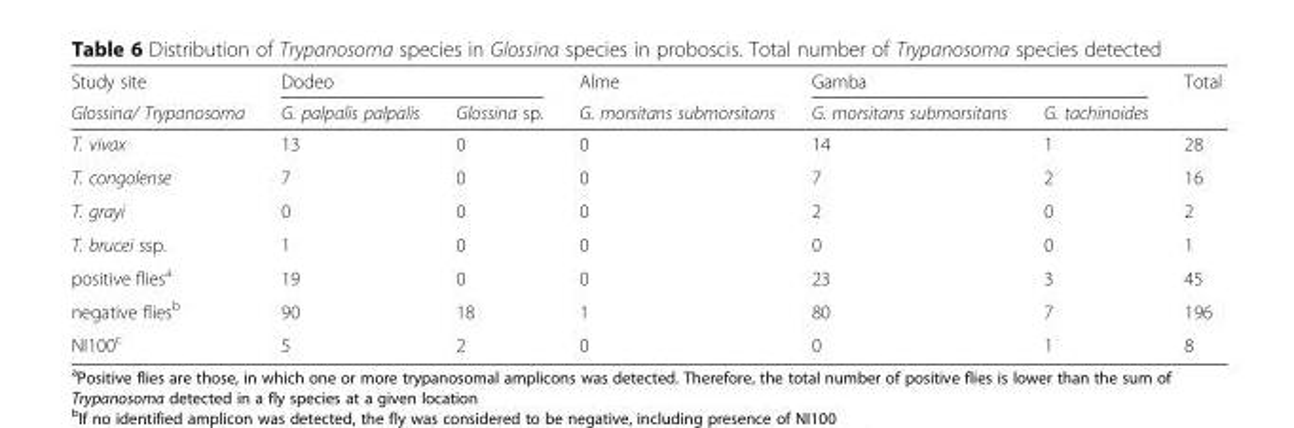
<table><thead><tr><td rowspan="2">Study site Glossina/ Trypanosoma</td><td colspan="2">Dodeo</td><td rowspan="2">Alme G. morsitans submorsitans</td><td colspan="2">Gamba</td><td rowspan="2">Total</td></tr><tr><td>G. palpalis palpalis</td><td>Glossina sp.</td><td>G. morsitans submorsitans</td><td>G. tachinoides</td></tr></thead><tbody><tr><td>T. vivax</td><td>13</td><td>0</td><td>0</td><td>14</td><td>1</td><td>28</td></tr><tr><td>T. congolense</td><td>7</td><td>0</td><td>0</td><td>7</td><td>2</td><td>16</td></tr><tr><td>T. grayi</td><td>0</td><td>0</td><td>0</td><td>2</td><td>0</td><td>2</td></tr><tr><td>T. brucei ssp.</td><td>1</td><td>0</td><td>0</td><td>0</td><td>0</td><td>1</td></tr><tr><td>positive flies<sup>a</sup></td><td>19</td><td>0</td><td>0</td><td>23</td><td>3</td><td>45</td></tr><tr><td>negative flies<sup>b</sup></td><td>90</td><td>18</td><td>1</td><td>80</td><td>7</td><td>196</td></tr><tr><td>NI100<sup>c</sup></td><td>5</td><td>2</td><td>0</td><td>0</td><td>1</td><td>8</td></tr></tbody></table>